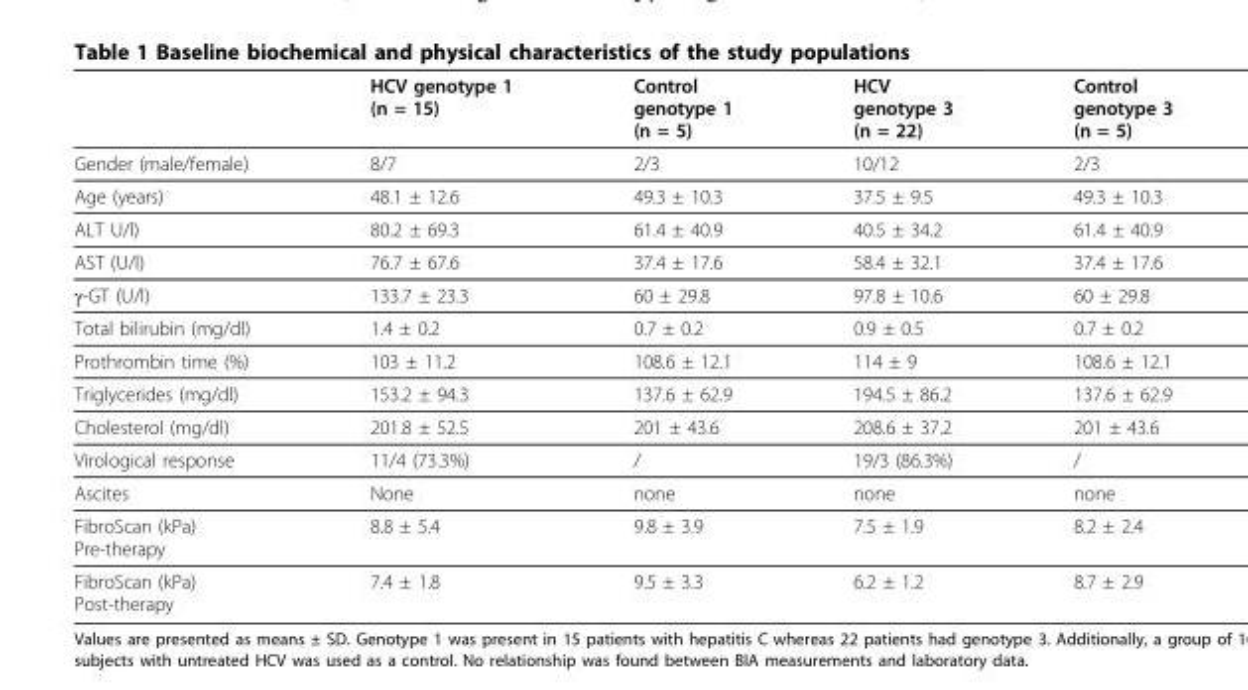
<table><thead><tr><td></td><td>HCV genotype 1 (n = 15)</td><td>Control genotype 1 (n = 5)</td><td>HCV genotype 3 (n = 22)</td><td>Control genotype 3 (n = 5)</td></tr></thead><tbody><tr><td>Gender (male/female)</td><td>8/7</td><td>2/3</td><td>10/12</td><td>2/3</td></tr><tr><td>Age (years)</td><td>48.1 ± 12.6</td><td>49.3 ± 10.3</td><td>37.5 ± 9.5</td><td>49.3 ± 10.3</td></tr><tr><td>ALT U/l)</td><td>80.2 ± 69.3</td><td>61.4 ± 40.9</td><td>40.5 ± 34.2</td><td>61.4 ± 40.9</td></tr><tr><td>AST (U/l)</td><td>76.7 ± 67.6</td><td>37.4 ± 17.6</td><td>58.4 ± 32.1</td><td>37.4 ± 17.6</td></tr><tr><td>γ-GT (U/l)</td><td>133.7 ± 23.3</td><td>60 ± 29.8</td><td>97.8 ± 10.6</td><td>60 ± 29.8</td></tr><tr><td>Total bilirubin (mg/dl)</td><td>1.4 ± 0.2</td><td>0.7 ± 0.2</td><td>0.9 ± 0.5</td><td>0.7 ± 0.2</td></tr><tr><td>Prothrombin time (%)</td><td>103 ± 11.2</td><td>108.6 ± 12.1</td><td>114 ± 9</td><td>108.6 ± 12.1</td></tr><tr><td>Triglycerides (mg/dl)</td><td>153.2 ± 94.3</td><td>137.6 ± 62.9</td><td>194.5 ± 86.2</td><td>137.6 ± 62.9</td></tr><tr><td>Cholesterol (mg/dl)</td><td>201.8 ± 52.5</td><td>201 ± 43.6</td><td>208.6 ± 37.2</td><td>201 ± 43.6</td></tr><tr><td>Virological response</td><td>11/4 (73.3%)</td><td>/</td><td>19/3 (86.3%)</td><td>/</td></tr><tr><td>Ascites</td><td>None</td><td>none</td><td>none</td><td>none</td></tr><tr><td>FibroScan (kPa) Pre-therapy</td><td>8.8 ± 5.4</td><td>9.8 ± 3.9</td><td>7.5 ± 1.9</td><td>8.2 ± 2.4</td></tr><tr><td>FibroScan (kPa) Post-therapy</td><td>7.4 ± 1.8</td><td>9.5 ± 3.3</td><td>6.2 ± 1.2</td><td>8.7 ± 2.9</td></tr></tbody></table>